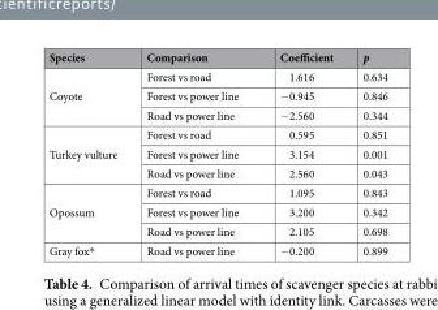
<table><thead><tr><td>Species</td><td>Comparison</td><td>Coefficient</td><td>p</td></tr></thead><tbody><tr><td rowspan="3">Coyote</td><td>Forest vs road</td><td>1.616</td><td>0.634</td></tr><tr><td>Forest vs power line</td><td>−0.945</td><td>0.846</td></tr><tr><td>Road vs power line</td><td>−2.560</td><td>0.344</td></tr><tr><td rowspan="3">Turkey vulture</td><td>Forest vs road</td><td>0.595</td><td>0.851</td></tr><tr><td>Forest vs power line</td><td>3.154</td><td>0.001</td></tr><tr><td>Road vs power line</td><td>2.560</td><td>0.043</td></tr><tr><td rowspan="3">Opossum</td><td>Forest vs road</td><td>1.095</td><td>0.843</td></tr><tr><td>Forest vs power line</td><td>3.200</td><td>0.342</td></tr><tr><td>Road vs power line</td><td>2.105</td><td>0.698</td></tr><tr><td>Gray fox*</td><td>Road vs power line</td><td>−0.200</td><td>0.899</td></tr></tbody></table>